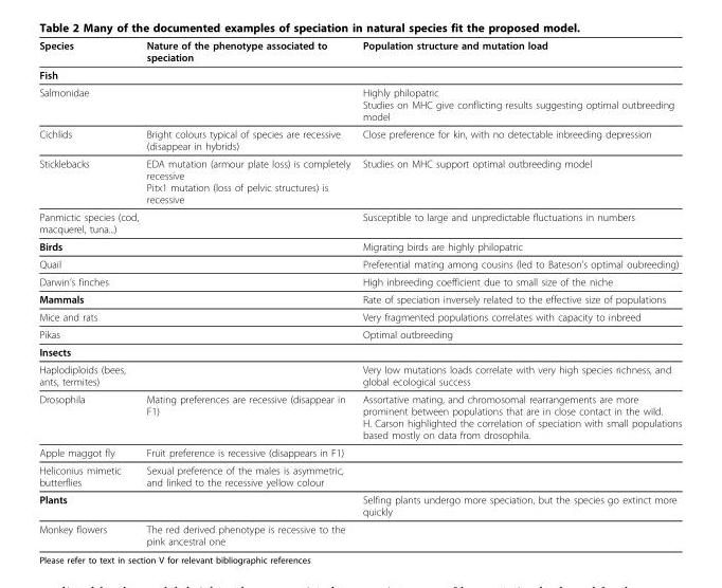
<table><thead><tr><td>Species</td><td>Nature of the phenotype associated to speciation</td><td>Population structure and mutation load</td></tr></thead><tbody><tr><td colspan="3">Fish</td></tr><tr><td>Salmonidae</td><td></td><td>Highly philopatric Studies on MHC give conflicting results suggesting optimal outbreeding model</td></tr><tr><td>Cichlids</td><td>Bright colours typical of species are recessive (disappear in hybrids)</td><td>Close preference for kin, with no detectable inbreeding depression</td></tr><tr><td>Sticklebacks</td><td>EDA mutation (armour plate loss) is completely recessive Pitx1 mutation (loss of pelvic structures) is recessive</td><td>Studies on MHC support optimal outbreeding model</td></tr><tr><td>Panmictic species (cod, macquerel, tuna...)</td><td></td><td>Susceptible to large and unpredictable fluctuations in numbers</td></tr><tr><td>Birds</td><td></td><td>Migrating birds are highly philopatric</td></tr><tr><td>Quail</td><td></td><td>Preferential mating among cousins (led to Bateson’s optimal oubreeding)</td></tr><tr><td>Darwin’s finches</td><td></td><td>High inbreeding coefficient due to small size of the niche</td></tr><tr><td>Mammals</td><td></td><td>Rate of speciation inversely related to the effective size of populations</td></tr><tr><td>Mice and rats</td><td></td><td>Very fragmented populations correlates with capacity to inbreed</td></tr><tr><td>Pikas</td><td></td><td>Optimal outbreeding</td></tr><tr><td colspan="3">Insects</td></tr><tr><td>Haplodiploids (bees, ants, termites)</td><td></td><td>Very low mutations loads correlate with very high species richness, and global ecological success</td></tr><tr><td>Drosophila</td><td>Mating preferences are recessive (disappear in F1)</td><td>Assortative mating, and chromosomal rearrangements are more prominent between populations that are in close contact in the wild. H. Carson highlighted the correlation of speciation with small populations based mostly on data from drosophila.</td></tr><tr><td>Apple maggot fly</td><td>Fruit preference is recessive (disappears in F1)</td><td></td></tr><tr><td>Heliconius mimetic butterflies</td><td>Sexual preference of the males is asymmetric, and linked to the recessive yellow colour</td><td></td></tr><tr><td>Plants</td><td></td><td>Selfing plants undergo more speciation, but the species go extinct more quickly</td></tr><tr><td>Monkey flowers</td><td>The red derived phenotype is recessive to the pink ancestral one</td><td></td></tr></tbody></table>